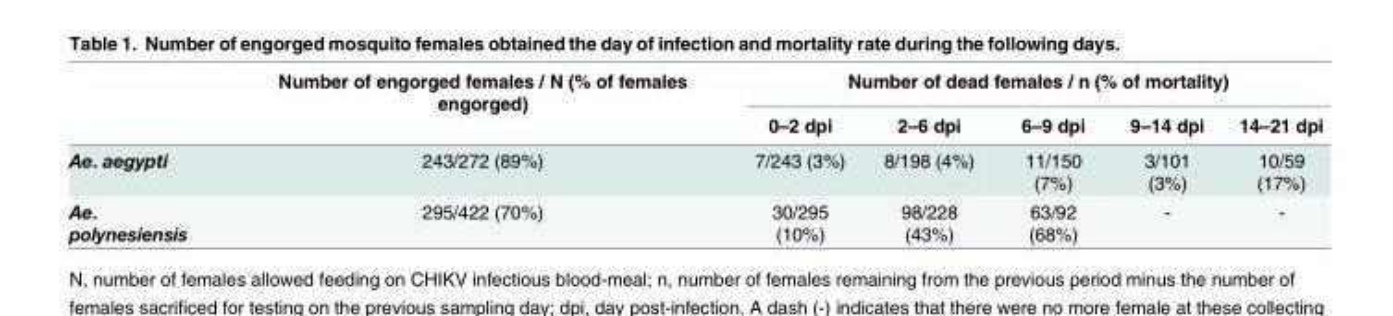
<table><thead><tr><td rowspan="2"></td><td rowspan="2">Number of engorged females / N (% of females engorged)</td><td colspan="5">Number of dead females / n (% of mortality)</td></tr><tr><td>0–2 dpi</td><td>2–6 dpi</td><td>6–9 dpi</td><td>9–14 dpi</td><td>14–21 dpi</td></tr></thead><tbody><tr><td>Ae. aegypti</td><td>243/272 (89%)</td><td>7/243 (3%)</td><td>8/198 (4%)</td><td>11/150 (7%)</td><td>3/101 (3%)</td><td>10/59 (17%)</td></tr><tr><td>Ae. polynesiensis</td><td>295/422 (70%)</td><td>30/295 (10%)</td><td>98/228 (43%)</td><td>63/92 (68%)</td><td>-</td><td>-</td></tr></tbody></table>